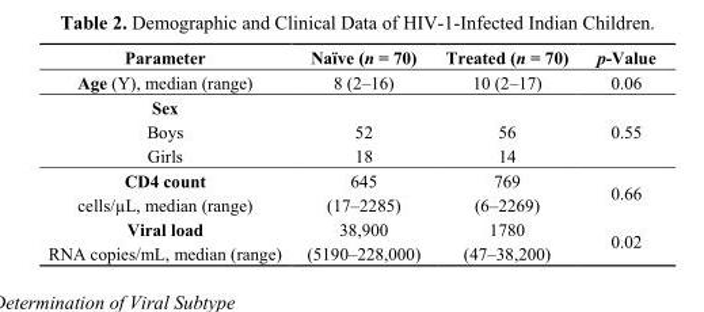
<table><thead><tr><td>Parameter</td><td>Naïve (n = 70)</td><td>Treated (n = 70)</td><td>p-Value</td></tr></thead><tbody><tr><td>Age (Y), median (range)</td><td>8 (2–16)</td><td>10 (2–17)</td><td>0.06</td></tr><tr><td colspan="3">Sex</td><td rowspan="3">0.55</td></tr><tr><td>Boys</td><td>52</td><td>56</td></tr><tr><td>Girls</td><td>18</td><td>14</td></tr><tr><td>CD4 count</td><td>645</td><td>769</td><td rowspan="2">0.66</td></tr><tr><td>cells/µL, median (range)</td><td>(17–2285)</td><td>(6–2269)</td></tr><tr><td>Viral load</td><td>38,900</td><td>1780</td><td rowspan="2">0.02</td></tr><tr><td>RNA copies/mL, median (range)</td><td>(5190–228,000)</td><td>(47–38,200)</td></tr></tbody></table>